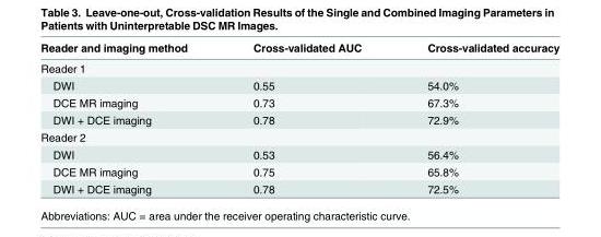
<table><thead><tr><td>Reader and imaging method</td><td>Cross-validated AUC</td><td>Cross-validated accuracy</td></tr></thead><tbody><tr><td colspan="3">Reader 1</td></tr><tr><td>DWI</td><td>0.55</td><td>54.0%</td></tr><tr><td>DCE MR imaging</td><td>0.73</td><td>67.3%</td></tr><tr><td>DWI + DCE imaging</td><td>0.78</td><td>72.9%</td></tr><tr><td colspan="3">Reader 2</td></tr><tr><td>DWI</td><td>0.53</td><td>56.4%</td></tr><tr><td>DCE MR imaging</td><td>0.75</td><td>65.8%</td></tr><tr><td>DWI + DCE imaging</td><td>0.78</td><td>72.5%</td></tr></tbody></table>